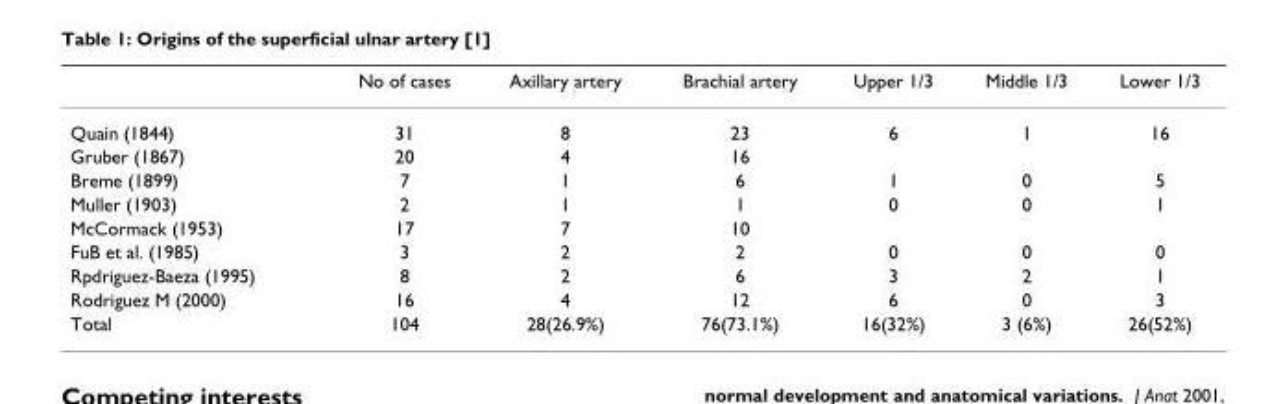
<table><thead><tr><td></td><td>No of cases</td><td>Axillary artery</td><td>Brachial artery</td><td>Upper 1/3</td><td>Middle 1/3</td><td>Lower 1/3</td></tr></thead><tbody><tr><td>Quain (1844)</td><td>31</td><td>8</td><td>23</td><td>6</td><td>1</td><td>16</td></tr><tr><td>Gruber (1867)</td><td>20</td><td>4</td><td>16</td><td></td><td></td><td></td></tr><tr><td>Breme (1899)</td><td>7</td><td>1</td><td>6</td><td>1</td><td>0</td><td>5</td></tr><tr><td>Muller (1903)</td><td>2</td><td>1</td><td>1</td><td>0</td><td>0</td><td>1</td></tr><tr><td>McCormack (1953)</td><td>17</td><td>7</td><td>10</td><td></td><td></td><td></td></tr><tr><td>FuB et al. (1985)</td><td>3</td><td>2</td><td>2</td><td>0</td><td>0</td><td>0</td></tr><tr><td>Rpdriguez-Baeza (1995)</td><td>8</td><td>2</td><td>6</td><td>3</td><td>2</td><td>1</td></tr><tr><td>Rodriguez M (2000)</td><td>16</td><td>4</td><td>12</td><td>6</td><td>0</td><td>3</td></tr><tr><td>Total</td><td>104</td><td>28(26.9%)</td><td>76(73.1%)</td><td>16(32%)</td><td>3 (6%)</td><td>26(52%)</td></tr></tbody></table>